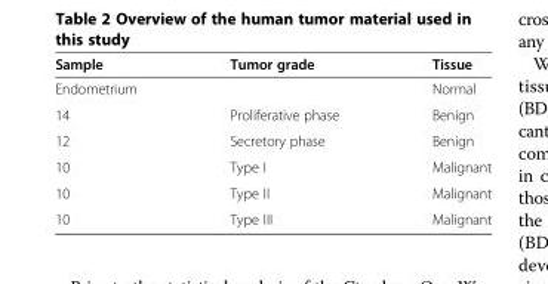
<table><thead><tr><td>Sample</td><td>Tumor grade</td><td>Tissue</td></tr></thead><tbody><tr><td>Endometrium</td><td></td><td>Normal</td></tr><tr><td>14</td><td>Proliferative phase</td><td>Benign</td></tr><tr><td>12</td><td>Secretory phase</td><td>Benign</td></tr><tr><td>10</td><td>Type I</td><td>Malignant</td></tr><tr><td>10</td><td>Type II</td><td>Malignant</td></tr><tr><td>10</td><td>Type III</td><td>Malignant</td></tr></tbody></table>